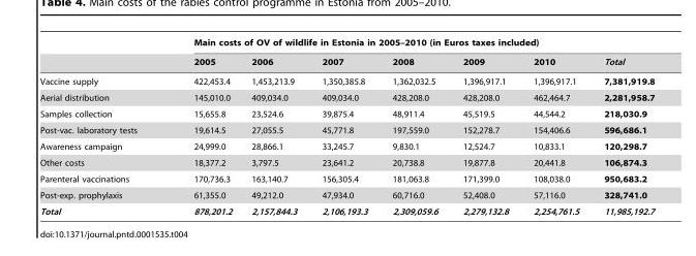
<table><thead><tr><td rowspan="2"></td><td colspan="7">Main costs of OV of wildlife in Estonia in 2005–2010 (in Euros taxes included)</td></tr><tr><td>2005</td><td>2006</td><td>2007</td><td>2008</td><td>2009</td><td>2010</td><td>Total</td></tr></thead><tbody><tr><td>Vaccine supply</td><td>422,453.4</td><td>1,453,213.9</td><td>1,350,385.8</td><td>1,362,032.5</td><td>1,396,917.1</td><td>1,396,917.1</td><td>7,381,919.8</td></tr><tr><td>Aerial distribution</td><td>145,010.0</td><td>409,034.0</td><td>409,034.0</td><td>428,208.0</td><td>428,208.0</td><td>462,464.7</td><td>2,281,958.7</td></tr><tr><td>Samples collection</td><td>15,655.8</td><td>23,524.6</td><td>39,875.4</td><td>48,911.4</td><td>45,519.5</td><td>44,544.2</td><td>218,030.9</td></tr><tr><td>Post-vac. laboratory tests</td><td>19,614.5</td><td>27,055.5</td><td>45,771.8</td><td>197,559.0</td><td>152,278.7</td><td>154,406.6</td><td>596,686.1</td></tr><tr><td>Awareness campaign</td><td>24,999.0</td><td>28,866.1</td><td>33,245.7</td><td>9,830.1</td><td>12,524.7</td><td>10,833.1</td><td>120,298.7</td></tr><tr><td>Other costs</td><td>18,377.2</td><td>3,797.5</td><td>23,641.2</td><td>20,738.8</td><td>19,877.8</td><td>20,441.8</td><td>106,874.3</td></tr><tr><td>Parenteral vaccinations</td><td>170,736.3</td><td>163,140.7</td><td>156,305.4</td><td>181,063.8</td><td>171,399.0</td><td>108,038.0</td><td>950,683.2</td></tr><tr><td>Post-exp. prophylaxis</td><td>61,355.0</td><td>49,212.0</td><td>47,934.0</td><td>60,716.0</td><td>52,408.0</td><td>57,116.0</td><td>328,741.0</td></tr><tr><td>Total</td><td>878,201.2</td><td>2,157,844.3</td><td>2,106,193.3</td><td>2,309,059.6</td><td>2,279,132.8</td><td>2,254,761.5</td><td>11,985,192.7</td></tr></tbody></table>